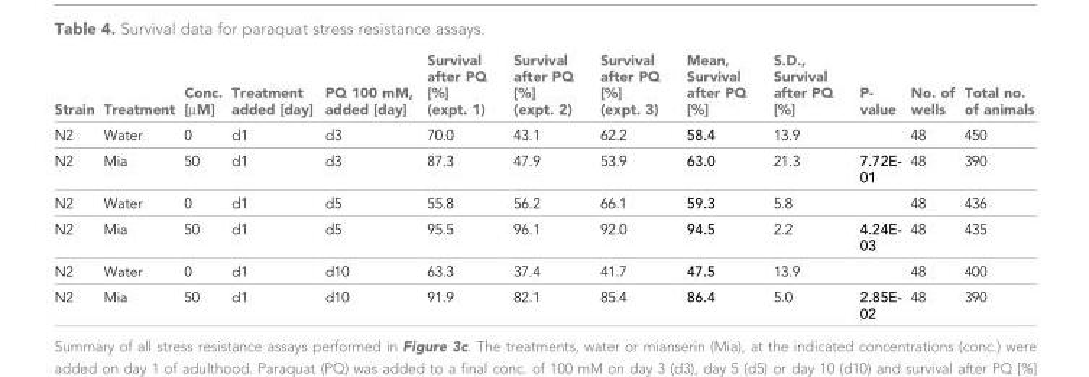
<table><thead><tr><td>Strain</td><td>Treatment</td><td>Conc. [µM]</td><td>Treatment added [day]</td><td>PQ 100 mM, added [day]</td><td>Survival after PQ [%] (expt. 1)</td><td>Survival after PQ [%] (expt. 2)</td><td>Survival after PQ [%] (expt. 3)</td><td>Mean, Survival after PQ [%]</td><td>S.D., Survival after PQ [%]</td><td>P- value</td><td>No. of wells</td><td>Total no. of animals</td></tr></thead><tbody><tr><td>N2</td><td>Water</td><td>0</td><td>d1</td><td>d3</td><td>70.0</td><td>43.1</td><td>62.2</td><td>58.4</td><td>13.9</td><td></td><td>48</td><td>450</td></tr><tr><td>N2</td><td>Mia</td><td>50</td><td>d1</td><td>d3</td><td>87.3</td><td>47.9</td><td>53.9</td><td>63.0</td><td>21.3</td><td>7.72E- 01</td><td>48</td><td>390</td></tr><tr><td>N2</td><td>Water</td><td>0</td><td>d1</td><td>d5</td><td>55.8</td><td>56.2</td><td>66.1</td><td>59.3</td><td>5.8</td><td></td><td>48</td><td>436</td></tr><tr><td>N2</td><td>Mia</td><td>50</td><td>d1</td><td>d5</td><td>95.5</td><td>96.1</td><td>92.0</td><td>94.5</td><td>2.2</td><td>4.24E- 03</td><td>48</td><td>435</td></tr><tr><td>N2</td><td>Water</td><td>0</td><td>d1</td><td>d10</td><td>63.3</td><td>37.4</td><td>41.7</td><td>47.5</td><td>13.9</td><td></td><td>48</td><td>400</td></tr><tr><td>N2</td><td>Mia</td><td>50</td><td>d1</td><td>d10</td><td>91.9</td><td>82.1</td><td>85.4</td><td>86.4</td><td>5.0</td><td>2.85E- 02</td><td>48</td><td>390</td></tr></tbody></table>